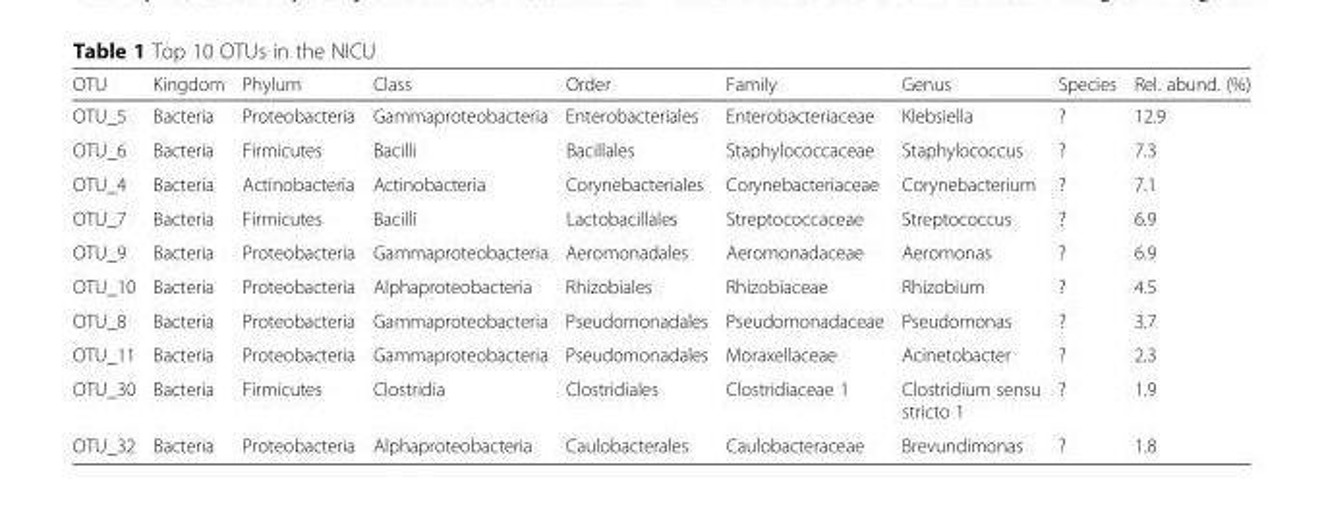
<table><thead><tr><td>OTU</td><td>Kingdom</td><td>Phylum</td><td>Class</td><td>Order</td><td>Family</td><td>Genus</td><td>Species</td><td>Rel. abund. (%)</td></tr></thead><tbody><tr><td>OTU_5</td><td>Bacteria</td><td>Proteobacteria</td><td>Gammaproteobacteria</td><td>Enterobacteriales</td><td>Enterobacteriaceae</td><td>Klebsiella</td><td>?</td><td>12.9</td></tr><tr><td>OTU_6</td><td>Bacteria</td><td>Firmicutes</td><td>Bacilli</td><td>Bacillales</td><td>Staphylococcaceae</td><td>Staphylococcus</td><td>?</td><td>7.3</td></tr><tr><td>OTU_4</td><td>Bacteria</td><td>Actinobacteria</td><td>Actinobacteria</td><td>Corynebacteriales</td><td>Corynebacteriaceae</td><td>Corynebacterium</td><td>?</td><td>7.1</td></tr><tr><td>OTU_7</td><td>Bacteria</td><td>Firmicutes</td><td>Bacilli</td><td>Lactobacillales</td><td>Streptococcaceae</td><td>Streptococcus</td><td>?</td><td>6.9</td></tr><tr><td>OTU_9</td><td>Bacteria</td><td>Proteobacteria</td><td>Gammaproteobacteria</td><td>Aeromonadales</td><td>Aeromonadaceae</td><td>Aeromonas</td><td>?</td><td>6.9</td></tr><tr><td>OTU_10</td><td>Bacteria</td><td>Proteobacteria</td><td>Alphaproteobacteria</td><td>Rhizobiales</td><td>Rhizobiaceae</td><td>Rhizobium</td><td>?</td><td>4.5</td></tr><tr><td>OTU_8</td><td>Bacteria</td><td>Proteobacteria</td><td>Gammaproteobacteria</td><td>Pseudomonadales</td><td>Pseudomonadaceae</td><td>Pseudomonas</td><td>?</td><td>3.7</td></tr><tr><td>OTU_11</td><td>Bacteria</td><td>Proteobacteria</td><td>Gammaproteobacteria</td><td>Pseudomonadales</td><td>Moraxellaceae</td><td>Acinetobacter</td><td>?</td><td>2.3</td></tr><tr><td>OTU_30</td><td>Bacteria</td><td>Firmicutes</td><td>Clostridia</td><td>Clostridiales</td><td>Clostridiaceae 1</td><td>Clostridium sensu stricto 1</td><td>?</td><td>1.9</td></tr><tr><td>OTU_32</td><td>Bacteria</td><td>Proteobacteria</td><td>Alphaproteobacteria</td><td>Caulobacterales</td><td>Caulobacteraceae</td><td>Brevundimonas</td><td>?</td><td>1.8</td></tr></tbody></table>